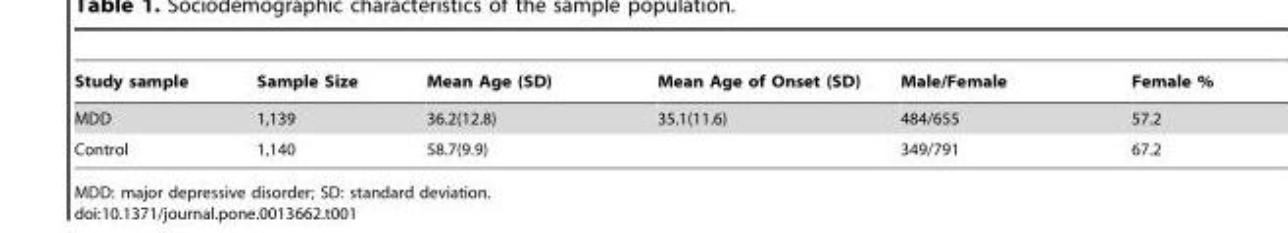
<table><thead><tr><td>Study sample</td><td>Sample Size</td><td>Mean Age (SD)</td><td>Mean Age of Onset (SD)</td><td>Male/Female</td><td>Female %</td></tr></thead><tbody><tr><td>MDD</td><td>1,139</td><td>36.2(12.8)</td><td>35.1(11.6)</td><td>484/655</td><td>57.2</td></tr><tr><td>Control</td><td>1,140</td><td>58.7(9.9)</td><td></td><td>349/791</td><td>67.2</td></tr></tbody></table>